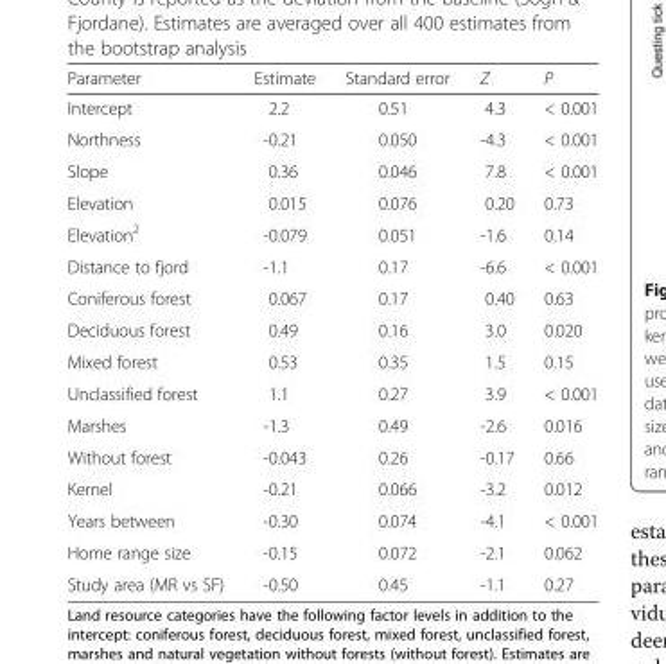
<table><thead><tr><td>Parameter</td><td>Estimate</td><td>Standard error</td><td>Z</td><td>P</td></tr></thead><tbody><tr><td>Intercept</td><td>2.2</td><td>0.51</td><td>4.3</td><td>&lt; 0.001</td></tr><tr><td>Northness</td><td>-0.21</td><td>0.050</td><td>-4.3</td><td>&lt; 0.001</td></tr><tr><td>Slope</td><td>0.36</td><td>0.046</td><td>7.8</td><td>&lt; 0.001</td></tr><tr><td>Elevation</td><td>0.015</td><td>0.076</td><td>0.20</td><td>0.73</td></tr><tr><td>Elevation<sup>2</sup></td><td>-0.079</td><td>0.051</td><td>-1.6</td><td>0.14</td></tr><tr><td>Distance to fjord</td><td>-1.1</td><td>0.17</td><td>-6.6</td><td>&lt; 0.001</td></tr><tr><td>Coniferous forest</td><td>0.067</td><td>0.17</td><td>0.40</td><td>0.63</td></tr><tr><td>Deciduous forest</td><td>0.49</td><td>0.16</td><td>3.0</td><td>0.020</td></tr><tr><td>Mixed forest</td><td>0.53</td><td>0.35</td><td>1.5</td><td>0.15</td></tr><tr><td>Unclassified forest</td><td>1.1</td><td>0.27</td><td>3.9</td><td>&lt; 0.001</td></tr><tr><td>Marshes</td><td>-1.3</td><td>0.49</td><td>-2.6</td><td>0.016</td></tr><tr><td>Without forest</td><td>-0.043</td><td>0.26</td><td>-0.17</td><td>0.66</td></tr><tr><td>Kernel</td><td>-0.21</td><td>0.066</td><td>-3.2</td><td>0.012</td></tr><tr><td>Years between</td><td>-0.30</td><td>0.074</td><td>-4.1</td><td>&lt; 0.001</td></tr><tr><td>Home range size</td><td>-0.15</td><td>0.072</td><td>-2.1</td><td>0.062</td></tr><tr><td>Study area (MR vs SF)</td><td>-0.50</td><td>0.45</td><td>-1.1</td><td>0.27</td></tr></tbody></table>